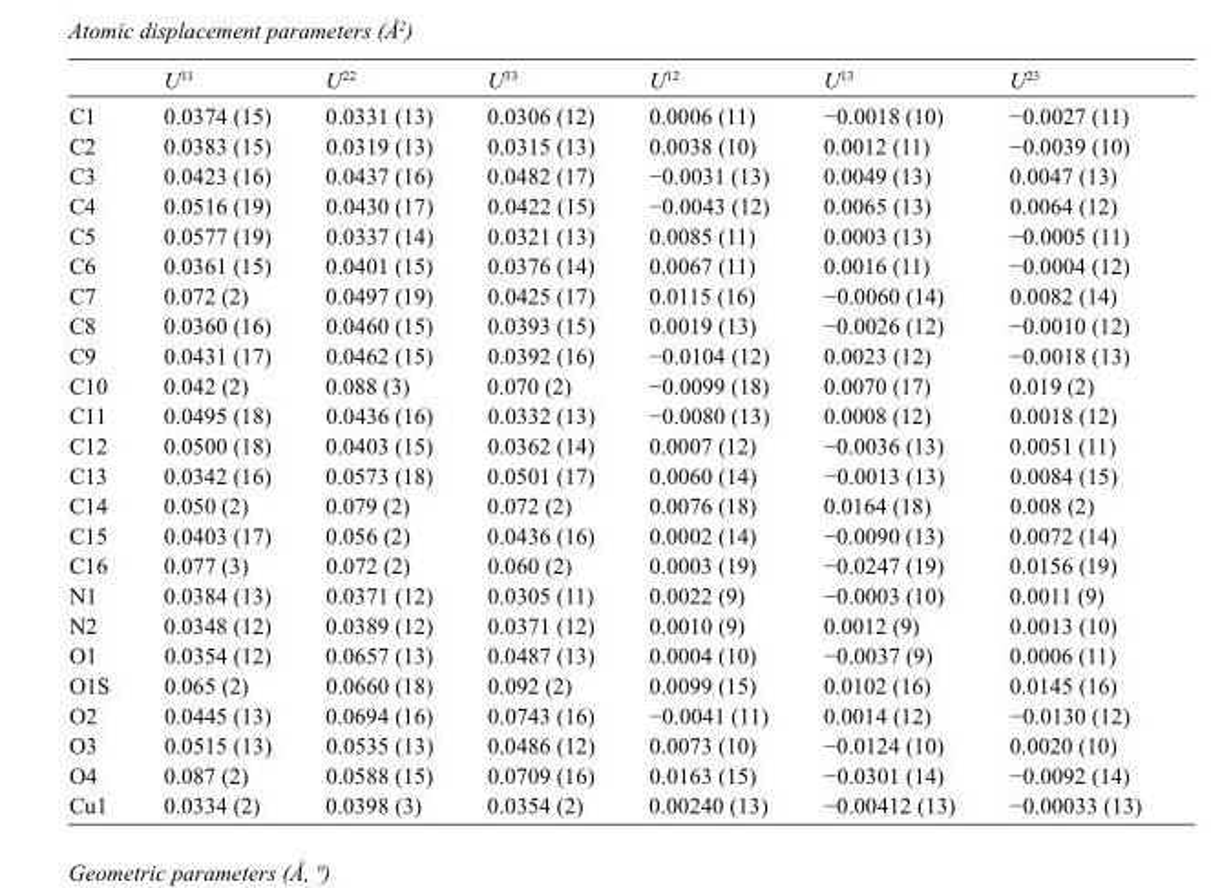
<table><thead><tr><td></td><td>U<sup>11</sup></td><td>U<sup>22</sup></td><td>U<sup>33</sup></td><td>U<sup>12</sup></td><td>U<sup>13</sup></td><td>U<sup>23</sup></td></tr></thead><tbody><tr><td>C1</td><td>0.0374 (15)</td><td>0.0331 (13)</td><td>0.0306 (12)</td><td>0.0006 (11)</td><td>−0.0018 (10)</td><td>−0.0027 (11)</td></tr><tr><td>C2</td><td>0.0383 (15)</td><td>0.0319 (13)</td><td>0.0315 (13)</td><td>0.0038 (10)</td><td>0.0012 (11)</td><td>−0.0039 (10)</td></tr><tr><td>C3</td><td>0.0423 (16)</td><td>0.0437 (16)</td><td>0.0482 (17)</td><td>−0.0031 (13)</td><td>0.0049 (13)</td><td>0.0047 (13)</td></tr><tr><td>C4</td><td>0.0516 (19)</td><td>0.0430 (17)</td><td>0.0422 (15)</td><td>−0.0043 (12)</td><td>0.0065 (13)</td><td>0.0064 (12)</td></tr><tr><td>C5</td><td>0.0577 (19)</td><td>0.0337 (14)</td><td>0.0321 (13)</td><td>0.0085 (11)</td><td>0.0003 (13)</td><td>−0.0005 (11)</td></tr><tr><td>C6</td><td>0.0361 (15)</td><td>0.0401 (15)</td><td>0.0376 (14)</td><td>0.0067 (11)</td><td>0.0016 (11)</td><td>−0.0004 (12)</td></tr><tr><td>C7</td><td>0.072 (2)</td><td>0.0497 (19)</td><td>0.0425 (17)</td><td>0.0115 (16)</td><td>−0.0060 (14)</td><td>0.0082 (14)</td></tr><tr><td>C8</td><td>0.0360 (16)</td><td>0.0460 (15)</td><td>0.0393 (15)</td><td>0.0019 (13)</td><td>−0.0026 (12)</td><td>−0.0010 (12)</td></tr><tr><td>C9</td><td>0.0431 (17)</td><td>0.0462 (15)</td><td>0.0392 (16)</td><td>−0.0104 (12)</td><td>0.0023 (12)</td><td>−0.0018 (13)</td></tr><tr><td>C10</td><td>0.042 (2)</td><td>0.088 (3)</td><td>0.070 (2)</td><td>−0.0099 (18)</td><td>0.0070 (17)</td><td>0.019 (2)</td></tr><tr><td>C11</td><td>0.0495 (18)</td><td>0.0436 (16)</td><td>0.0332 (13)</td><td>−0.0080 (13)</td><td>0.0008 (12)</td><td>0.0018 (12)</td></tr><tr><td>C12</td><td>0.0500 (18)</td><td>0.0403 (15)</td><td>0.0362 (14)</td><td>0.0007 (12)</td><td>−0.0036 (13)</td><td>0.0051 (11)</td></tr><tr><td>C13</td><td>0.0342 (16)</td><td>0.0573 (18)</td><td>0.0501 (17)</td><td>0.0060 (14)</td><td>−0.0013 (13)</td><td>0.0084 (15)</td></tr><tr><td>C14</td><td>0.050 (2)</td><td>0.079 (2)</td><td>0.072 (2)</td><td>0.0076 (18)</td><td>0.0164 (18)</td><td>0.008 (2)</td></tr><tr><td>C15</td><td>0.0403 (17)</td><td>0.056 (2)</td><td>0.0436 (16)</td><td>0.0002 (14)</td><td>−0.0090 (13)</td><td>0.0072 (14)</td></tr><tr><td>C16</td><td>0.077 (3)</td><td>0.072 (2)</td><td>0.060 (2)</td><td>0.0003 (19)</td><td>−0.0247 (19)</td><td>0.0156 (19)</td></tr><tr><td>N1</td><td>0.0384 (13)</td><td>0.0371 (12)</td><td>0.0305 (11)</td><td>0.0022 (9)</td><td>−0.0003 (10)</td><td>0.0011 (9)</td></tr><tr><td>N2</td><td>0.0348 (12)</td><td>0.0389 (12)</td><td>0.0371 (12)</td><td>0.0010 (9)</td><td>0.0012 (9)</td><td>0.0013 (10)</td></tr><tr><td>O1</td><td>0.0354 (12)</td><td>0.0657 (13)</td><td>0.0487 (13)</td><td>0.0004 (10)</td><td>−0.0037 (9)</td><td>0.0006 (11)</td></tr><tr><td>O1S</td><td>0.065 (2)</td><td>0.0660 (18)</td><td>0.092 (2)</td><td>0.0099 (15)</td><td>0.0102 (16)</td><td>0.0145 (16)</td></tr><tr><td>O2</td><td>0.0445 (13)</td><td>0.0694 (16)</td><td>0.0743 (16)</td><td>−0.0041 (11)</td><td>0.0014 (12)</td><td>−0.0130 (12)</td></tr><tr><td>O3</td><td>0.0515 (13)</td><td>0.0535 (13)</td><td>0.0486 (12)</td><td>0.0073 (10)</td><td>−0.0124 (10)</td><td>0.0020 (10)</td></tr><tr><td>O4</td><td>0.087 (2)</td><td>0.0588 (15)</td><td>0.0709 (16)</td><td>0.0163 (15)</td><td>−0.0301 (14)</td><td>−0.0092 (14)</td></tr><tr><td>Cu1</td><td>0.0334 (2)</td><td>0.0398 (3)</td><td>0.0354 (2)</td><td>0.00240 (13)</td><td>−0.00412 (13)</td><td>−0.00033 (13)</td></tr></tbody></table>